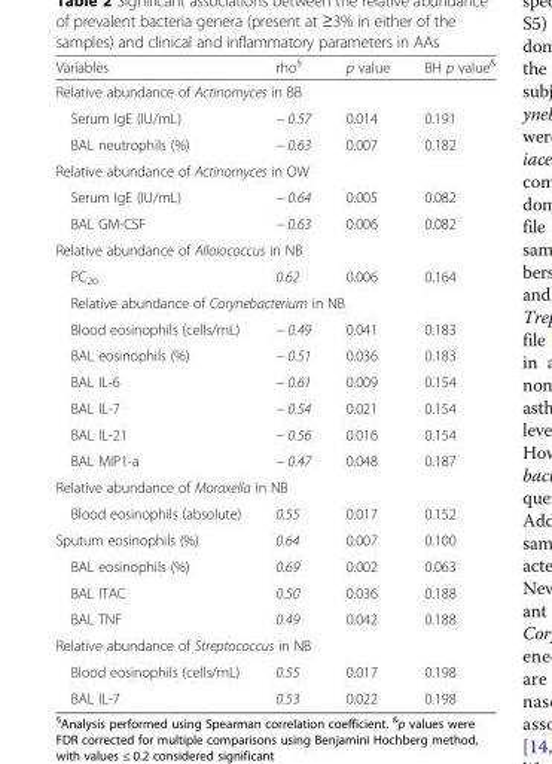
<table><thead><tr><td>Variables</td><td>rho<sup>§</sup></td><td>p value</td><td>BH p value<sup>&amp;</sup></td></tr></thead><tbody><tr><td colspan="4">Relative abundance of Actinomyces in BB</td></tr><tr><td>Serum IgE (IU/mL)</td><td>− 0.57</td><td>0.014</td><td>0.191</td></tr><tr><td>BAL neutrophils (%)</td><td>− 0.63</td><td>0.007</td><td>0.182</td></tr><tr><td colspan="4">Relative abundance of Actinomyces in OW</td></tr><tr><td>Serum IgE (IU/mL)</td><td>− 0.64</td><td>0.005</td><td>0.082</td></tr><tr><td>BAL GM-CSF</td><td>− 0.63</td><td>0.006</td><td>0.082</td></tr><tr><td colspan="4">Relative abundance of Alloiococcus in NB</td></tr><tr><td>PC<sub>20</sub></td><td>0.62</td><td>0.006</td><td>0.164</td></tr><tr><td colspan="4">Relative abundance of Corynebacterium in NB</td></tr><tr><td>Blood eosinophils (cells/mL)</td><td>− 0.49</td><td>0.041</td><td>0.183</td></tr><tr><td>BAL eosinophils (%)</td><td>− 0.51</td><td>0.036</td><td>0.183</td></tr><tr><td>BAL IL-6</td><td>− 0.61</td><td>0.009</td><td>0.154</td></tr><tr><td>BAL IL-7</td><td>− 0.54</td><td>0.021</td><td>0.154</td></tr><tr><td>BAL IL-21</td><td>− 0.56</td><td>0.016</td><td>0.154</td></tr><tr><td>BAL MIP1-a</td><td>− 0.47</td><td>0.048</td><td>0.187</td></tr><tr><td colspan="4">Relative abundance of Moraxella in NB</td></tr><tr><td>Blood eosinophils (absolute)</td><td>0.55</td><td>0.017</td><td>0.152</td></tr><tr><td>Sputum eosinophils (%)</td><td>0.64</td><td>0.007</td><td>0.100</td></tr><tr><td>BAL eosinophils (%)</td><td>0.69</td><td>0.002</td><td>0.063</td></tr><tr><td>BAL ITAC</td><td>0.50</td><td>0.036</td><td>0.188</td></tr><tr><td>BAL TNF</td><td>0.49</td><td>0.042</td><td>0.188</td></tr><tr><td colspan="4">Relative abundance of Streptococcus in NB</td></tr><tr><td>Blood eosinophils (cells/mL)</td><td>0.55</td><td>0.017</td><td>0.198</td></tr><tr><td>BAL IL-7</td><td>0.53</td><td>0.022</td><td>0.198</td></tr></tbody></table>